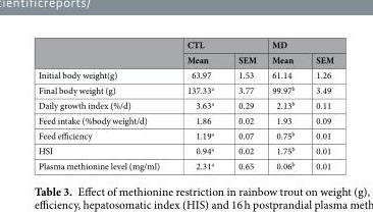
<table><thead><tr><td rowspan="2"></td><td colspan="2">CTL</td><td colspan="2">MD</td></tr><tr><td>Mean</td><td>SEM</td><td>Mean</td><td>SEM</td></tr></thead><tbody><tr><td>Initial body weight(g)</td><td>63.97</td><td>1.53</td><td>61.14</td><td>1.26</td></tr><tr><td>Final body weight (g)</td><td>137.33<sup>a</sup></td><td>3.77</td><td>99.97<sup>b</sup></td><td>3.49</td></tr><tr><td>Daily growth index (%/d)</td><td>3.63<sup>a</sup></td><td>0.29</td><td>2.13<sup>b</sup></td><td>0.11</td></tr><tr><td>Feed intake (%body weight/d)</td><td>1.86</td><td>0.02</td><td>1.93</td><td>0.09</td></tr><tr><td>Feed efficiency</td><td>1.19<sup>a</sup></td><td>0.07</td><td>0.75<sup>b</sup></td><td>0.01</td></tr><tr><td>HSI</td><td>0.94<sup>a</sup></td><td>0.02</td><td>1.75<sup>b</sup></td><td>0.01</td></tr><tr><td>Plasma methionine level (mg/ml)</td><td>2.31<sup>a</sup></td><td>0.65</td><td>0.06<sup>b</sup></td><td>0.01</td></tr></tbody></table>